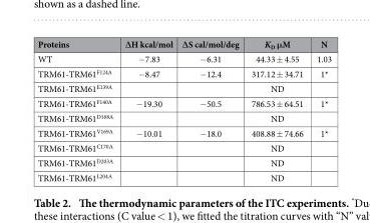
<table><thead><tr><td>Proteins</td><td>∆H kcal/mol</td><td>∆S cal/mol/deg</td><td>K<sub>D</sub> μM</td><td>N</td></tr></thead><tbody><tr><td>WT</td><td>− 7.83</td><td>− 6.31</td><td>44.33 ± 4.55</td><td>1.03</td></tr><tr><td>TRM61-TRM61<sup>F124A</sup></td><td>− 8.47</td><td>− 12.4</td><td>317.12 ± 34.71</td><td>1*</td></tr><tr><td>TRM61-TRM61<sup>E139A</sup></td><td></td><td></td><td>ND</td><td></td></tr><tr><td>TRM61-TRM61<sup>F140A</sup></td><td>− 19.30</td><td>− 50.5</td><td>786.53 ± 64.51</td><td>1*</td></tr><tr><td>TRM61-TRM61<sup>D168A</sup></td><td></td><td></td><td>ND</td><td></td></tr><tr><td>TRM61-TRM61<sup>V169A</sup></td><td>− 10.01</td><td>− 18.0</td><td>408.88 ± 74.66</td><td>1*</td></tr><tr><td>TRM61-TRM61<sup>C170A</sup></td><td></td><td></td><td>ND</td><td></td></tr><tr><td>TRM61-TRM61<sup>D203A</sup></td><td></td><td></td><td>ND</td><td></td></tr><tr><td>TRM61-TRM61<sup>L204A</sup></td><td></td><td></td><td>ND</td><td></td></tr></tbody></table>